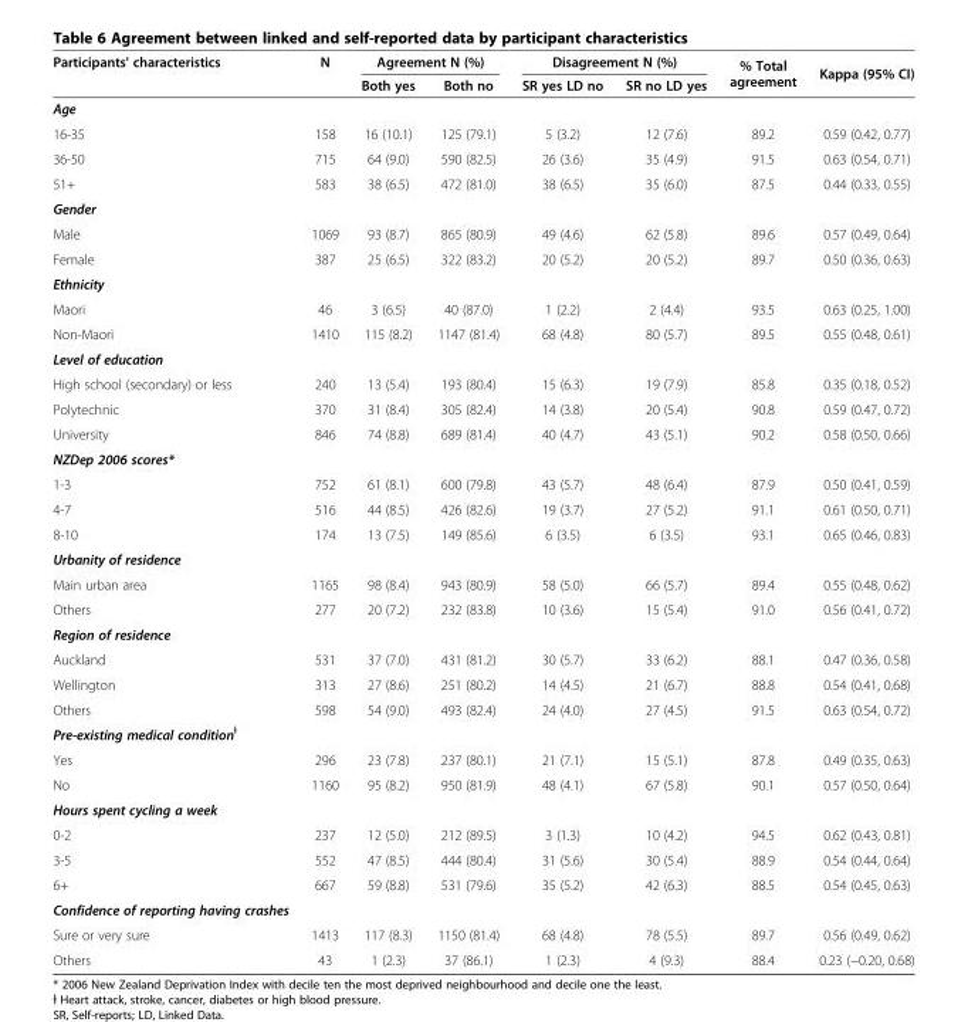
<table><thead><tr><td rowspan="2">Participants&#x27; characteristics</td><td rowspan="2">N</td><td colspan="2">Agreement N (%)</td><td colspan="2">Disagreement N (%)</td><td rowspan="2">% Total agreement</td><td rowspan="2">Kappa (95% CI)</td></tr><tr><td>Both yes</td><td>Both no</td><td>SR yes LD no</td><td>SR no LD yes</td></tr></thead><tbody><tr><td colspan="8">Age</td></tr><tr><td>16-35</td><td>158</td><td>16 (10.1)</td><td>125 (79.1)</td><td>5 (3.2)</td><td>12 (7.6)</td><td>89.2</td><td>0.59 (0.42, 0.77)</td></tr><tr><td>36-50</td><td>715</td><td>64 (9.0)</td><td>590 (82.5)</td><td>26 (3.6)</td><td>35 (4.9)</td><td>91.5</td><td>0.63 (0.54, 0.71)</td></tr><tr><td>51+</td><td>583</td><td>38 (6.5)</td><td>472 (81.0)</td><td>38 (6.5)</td><td>35 (6.0)</td><td>87.5</td><td>0.44 (0.33, 0.55)</td></tr><tr><td colspan="8">Gender</td></tr><tr><td>Male</td><td>1069</td><td>93 (8.7)</td><td>865 (80.9)</td><td>49 (4.6)</td><td>62 (5.8)</td><td>89.6</td><td>0.57 (0.49, 0.64)</td></tr><tr><td>Female</td><td>387</td><td>25 (6.5)</td><td>322 (83.2)</td><td>20 (5.2)</td><td>20 (5.2)</td><td>89.7</td><td>0.50 (0.36, 0.63)</td></tr><tr><td colspan="8">Ethnicity</td></tr><tr><td>Maori</td><td>46</td><td>3 (6.5)</td><td>40 (87.0)</td><td>1 (2.2)</td><td>2 (4.4)</td><td>93.5</td><td>0.63 (0.25, 1.00)</td></tr><tr><td>Non-Maori</td><td>1410</td><td>115 (8.2)</td><td>1147 (81.4)</td><td>68 (4.8)</td><td>80 (5.7)</td><td>89.5</td><td>0.55 (0.48, 0.61)</td></tr><tr><td colspan="8">Level of education</td></tr><tr><td>High school (secondary) or less</td><td>240</td><td>13 (5.4)</td><td>193 (80.4)</td><td>15 (6.3)</td><td>19 (7.9)</td><td>85.8</td><td>0.35 (0.18, 0.52)</td></tr><tr><td>Polytechnic</td><td>370</td><td>31 (8.4)</td><td>305 (82.4)</td><td>14 (3.8)</td><td>20 (5.4)</td><td>90.8</td><td>0.59 (0.47, 0.72)</td></tr><tr><td>University</td><td>846</td><td>74 (8.8)</td><td>689 (81.4)</td><td>40 (4.7)</td><td>43 (5.1)</td><td>90.2</td><td>0.58 (0.50, 0.66)</td></tr><tr><td colspan="8">NZDep 2006 scores*</td></tr><tr><td>1-3</td><td>752</td><td>61 (8.1)</td><td>600 (79.8)</td><td>43 (5.7)</td><td>48 (6.4)</td><td>87.9</td><td>0.50 (0.41, 0.59)</td></tr><tr><td>4-7</td><td>516</td><td>44 (8.5)</td><td>426 (82.6)</td><td>19 (3.7)</td><td>27 (5.2)</td><td>91.1</td><td>0.61 (0.50, 0.71)</td></tr><tr><td>8-10</td><td>174</td><td>13 (7.5)</td><td>149 (85.6)</td><td>6 (3.5)</td><td>6 (3.5)</td><td>93.1</td><td>0.65 (0.46, 0.83)</td></tr><tr><td colspan="8">Urbanity of residence</td></tr><tr><td>Main urban area</td><td>1165</td><td>98 (8.4)</td><td>943 (80.9)</td><td>58 (5.0)</td><td>66 (5.7)</td><td>89.4</td><td>0.55 (0.48, 0.62)</td></tr><tr><td>Others</td><td>277</td><td>20 (7.2)</td><td>232 (83.8)</td><td>10 (3.6)</td><td>15 (5.4)</td><td>91.0</td><td>0.56 (0.41, 0.72)</td></tr><tr><td colspan="8">Region of residence</td></tr><tr><td>Auckland</td><td>531</td><td>37 (7.0)</td><td>431 (81.2)</td><td>30 (5.7)</td><td>33 (6.2)</td><td>88.1</td><td>0.47 (0.36, 0.58)</td></tr><tr><td>Wellington</td><td>313</td><td>27 (8.6)</td><td>251 (80.2)</td><td>14 (4.5)</td><td>21 (6.7)</td><td>88.8</td><td>0.54 (0.41, 0.68)</td></tr><tr><td>Others</td><td>598</td><td>54 (9.0)</td><td>493 (82.4)</td><td>24 (4.0)</td><td>27 (4.5)</td><td>91.5</td><td>0.63 (0.54, 0.72)</td></tr><tr><td colspan="8">Pre-existing medical condition<sup>ƚ</sup></td></tr><tr><td>Yes</td><td>296</td><td>23 (7.8)</td><td>237 (80.1)</td><td>21 (7.1)</td><td>15 (5.1)</td><td>87.8</td><td>0.49 (0.35, 0.63)</td></tr><tr><td>No</td><td>1160</td><td>95 (8.2)</td><td>950 (81.9)</td><td>48 (4.1)</td><td>67 (5.8)</td><td>90.1</td><td>0.57 (0.50, 0.64)</td></tr><tr><td colspan="8">Hours spent cycling a week</td></tr><tr><td>0-2</td><td>237</td><td>12 (5.0)</td><td>212 (89.5)</td><td>3 (1.3)</td><td>10 (4.2)</td><td>94.5</td><td>0.62 (0.43, 0.81)</td></tr><tr><td>3-5</td><td>552</td><td>47 (8.5)</td><td>444 (80.4)</td><td>31 (5.6)</td><td>30 (5.4)</td><td>88.9</td><td>0.54 (0.44, 0.64)</td></tr><tr><td>6+</td><td>667</td><td>59 (8.8)</td><td>531 (79.6)</td><td>35 (5.2)</td><td>42 (6.3)</td><td>88.5</td><td>0.54 (0.45, 0.63)</td></tr><tr><td colspan="8">Confidence of reporting having crashes</td></tr><tr><td>Sure or very sure</td><td>1413</td><td>117 (8.3)</td><td>1150 (81.4)</td><td>68 (4.8)</td><td>78 (5.5)</td><td>89.7</td><td>0.56 (0.49, 0.62)</td></tr><tr><td>Others</td><td>43</td><td>1 (2.3)</td><td>37 (86.1)</td><td>1 (2.3)</td><td>4 (9.3)</td><td>88.4</td><td>0.23 (−0.20, 0.68)</td></tr></tbody></table>